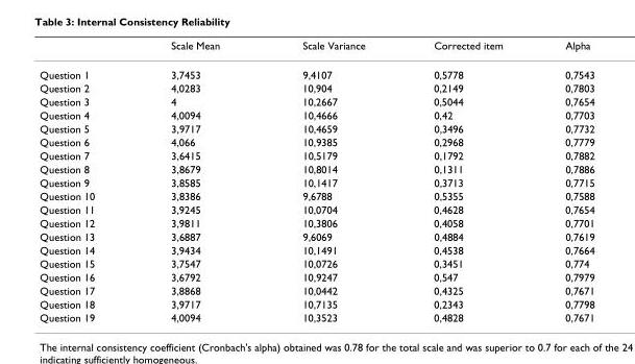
<table><thead><tr><td></td><td>Scale Mean</td><td>Scale Variance</td><td>Corrected item</td><td>Alpha</td></tr></thead><tbody><tr><td>Question 1</td><td>3,7453</td><td>9,4107</td><td>0,5778</td><td>0,7543</td></tr><tr><td>Question 2</td><td>4,0283</td><td>10,904</td><td>0,2149</td><td>0,7803</td></tr><tr><td>Question 3</td><td>4</td><td>10,2667</td><td>0,5044</td><td>0,7654</td></tr><tr><td>Question 4</td><td>4,0094</td><td>10,4666</td><td>0,42</td><td>0,7703</td></tr><tr><td>Question 5</td><td>3,9717</td><td>10,4659</td><td>0,3496</td><td>0,7732</td></tr><tr><td>Question 6</td><td>4,066</td><td>10,9385</td><td>0,2968</td><td>0,7779</td></tr><tr><td>Question 7</td><td>3,6415</td><td>10,5179</td><td>0,1792</td><td>0,7882</td></tr><tr><td>Question 8</td><td>3,8679</td><td>10,8014</td><td>0,1311</td><td>0,7886</td></tr><tr><td>Question 9</td><td>3,8585</td><td>10,1417</td><td>0,3713</td><td>0,7715</td></tr><tr><td>Question 10</td><td>3,8386</td><td>9,6788</td><td>0,5355</td><td>0,7588</td></tr><tr><td>Question 11</td><td>3,9245</td><td>10,0704</td><td>0,4628</td><td>0,7654</td></tr><tr><td>Question 12</td><td>3,9811</td><td>10,3806</td><td>0,4058</td><td>0,7701</td></tr><tr><td>Question 13</td><td>3,6887</td><td>9,6069</td><td>0,4884</td><td>0,7619</td></tr><tr><td>Question 14</td><td>3,9434</td><td>10,1491</td><td>0,4538</td><td>0,7664</td></tr><tr><td>Question 15</td><td>3,7547</td><td>10,0726</td><td>0,3451</td><td>0,774</td></tr><tr><td>Question 16</td><td>3,6792</td><td>10,9247</td><td>0,547</td><td>0,7979</td></tr><tr><td>Question 17</td><td>3,8868</td><td>10,0442</td><td>0,4325</td><td>0,7671</td></tr><tr><td>Question 18</td><td>3,9717</td><td>10,7135</td><td>0,2343</td><td>0,7798</td></tr><tr><td>Question 19</td><td>4,0094</td><td>10,3523</td><td>0,4828</td><td>0,7671</td></tr></tbody></table>